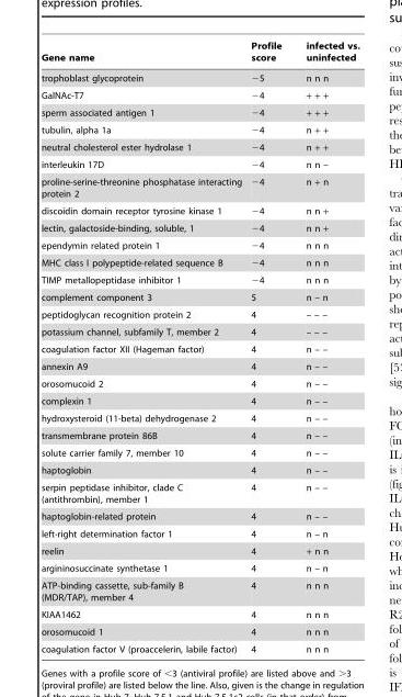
<table><thead><tr><td>Gene name</td><td>Profile score</td><td>infected vs. uninfected</td></tr></thead><tbody><tr><td>trophoblast glycoprotein</td><td>−5</td><td>n n n</td></tr><tr><td>GalNAc-T7</td><td>−4</td><td>+ + +</td></tr><tr><td>sperm associated antigen 1</td><td>−4</td><td>+ + +</td></tr><tr><td>tubulin, alpha 1a</td><td>−4</td><td>n + +</td></tr><tr><td>neutral cholesterol ester hydrolase 1</td><td>−4</td><td>n + +</td></tr><tr><td>interleukin 17D</td><td>−4</td><td>n n –</td></tr><tr><td>proline-serine-threonine phosphatase interacting protein 2</td><td>−4</td><td>n + n</td></tr><tr><td>discoidin domain receptor tyrosine kinase 1</td><td>−4</td><td>n n +</td></tr><tr><td>lectin, galactoside-binding, soluble, 1</td><td>−4</td><td>n n +</td></tr><tr><td>ependymin related protein 1</td><td>−4</td><td>n n n</td></tr><tr><td>MHC class I polypeptide-related sequence B</td><td>−4</td><td>n n n</td></tr><tr><td>TIMP metallopeptidase inhibitor 1</td><td>−4</td><td>n n n</td></tr><tr><td>complement component 3</td><td>5</td><td>n – n</td></tr><tr><td>peptidoglycan recognition protein 2</td><td>4</td><td>– – –</td></tr><tr><td>potassium channel, subfamily T, member 2</td><td>4</td><td>– – –</td></tr><tr><td>coagulation factor XII (Hageman factor)</td><td>4</td><td>n – –</td></tr><tr><td>annexin A9</td><td>4</td><td>n – –</td></tr><tr><td>orosomucoid 2</td><td>4</td><td>n – –</td></tr><tr><td>complexin 1</td><td>4</td><td>n – –</td></tr><tr><td>hydroxysteroid (11-beta) dehydrogenase 2</td><td>4</td><td>n – –</td></tr><tr><td>transmembrane protein 86B</td><td>4</td><td>n – –</td></tr><tr><td>solute carrier family 7, member 10</td><td>4</td><td>n – –</td></tr><tr><td>haptoglobin</td><td>4</td><td>n – –</td></tr><tr><td>serpin peptidase inhibitor, clade C (antithrombin), member 1</td><td>4</td><td>n – –</td></tr><tr><td>haptoglobin-related protein</td><td>4</td><td>n – –</td></tr><tr><td>left-right determination factor 1</td><td>4</td><td>n – n</td></tr><tr><td>reelin</td><td>4</td><td>+ n n</td></tr><tr><td>argininosuccinate synthetase 1</td><td>4</td><td>n – n</td></tr><tr><td>ATP-binding cassette, sub-family B (MDR/TAP), member 4</td><td>4</td><td>n n n</td></tr><tr><td>KIAA1462</td><td>4</td><td>n n n</td></tr><tr><td>orosomucoid 1</td><td>4</td><td>n n n</td></tr><tr><td>coagulation factor V (proaccelerin, labile factor)</td><td>4</td><td>n n n</td></tr></tbody></table>